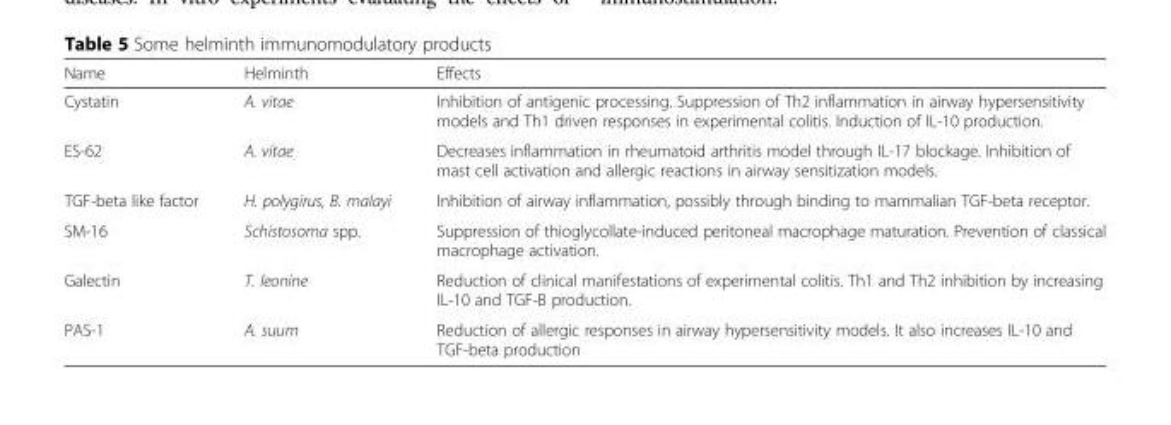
<table><thead><tr><td>Name</td><td>Helminth</td><td>Effects</td></tr></thead><tbody><tr><td>Cystatin</td><td>A. vitae</td><td>Inhibition of antigenic processing. Suppression of Th2 inflammation in airway hypersensitivity models and Th1 driven responses in experimental colitis. Induction of IL-10 production.</td></tr><tr><td>ES-62</td><td>A. vitae</td><td>Decreases inflammation in rheumatoid arthritis model through IL-17 blockage. Inhibition of mast cell activation and allergic reactions in airway sensitization models.</td></tr><tr><td>TGF-beta like factor</td><td>H. polygirus, B. malayi</td><td>Inhibition of airway inflammation, possibly through binding to mammalian TGF-beta receptor.</td></tr><tr><td>SM-16</td><td>Schistosoma spp.</td><td>Suppression of thioglycollate-induced peritoneal macrophage maturation. Prevention of classical macrophage activation.</td></tr><tr><td>Galectin</td><td>T. leonine</td><td>Reduction of clinical manifestations of experimental colitis. Th1 and Th2 inhibition by increasing IL-10 and TGF-B production.</td></tr><tr><td>PAS-1</td><td>A. suum</td><td>Reduction of allergic responses in airway hypersensitivity models. It also increases IL-10 and TGF-beta production</td></tr></tbody></table>